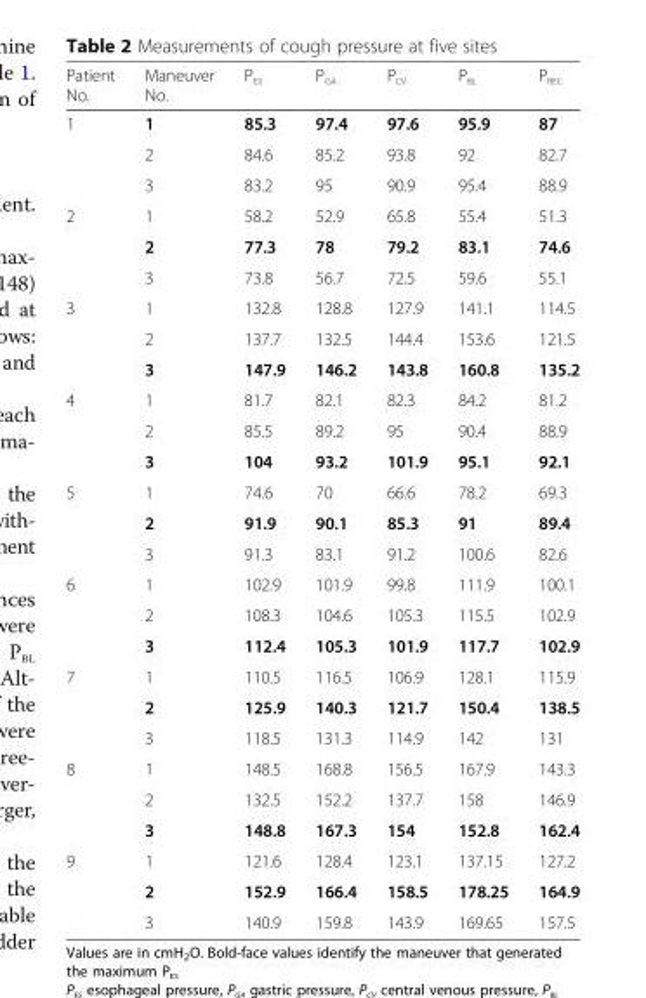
<table><thead><tr><td>Patient No.</td><td>Maneuver No.</td><td>P<sub>ES</sub></td><td>P<sub>GA</sub></td><td>P<sub>CV</sub></td><td>P<sub>BL</sub></td><td>P<sub>REC</sub></td></tr></thead><tbody><tr><td rowspan="3">1</td><td>1</td><td>85.3</td><td>97.4</td><td>97.6</td><td>95.9</td><td>87</td></tr><tr><td>2</td><td>84.6</td><td>85.2</td><td>93.8</td><td>92</td><td>82.7</td></tr><tr><td>3</td><td>83.2</td><td>95</td><td>90.9</td><td>95.4</td><td>88.9</td></tr><tr><td rowspan="3">2</td><td>1</td><td>58.2</td><td>52.9</td><td>65.8</td><td>55.4</td><td>51.3</td></tr><tr><td>2</td><td>77.3</td><td>78</td><td>79.2</td><td>83.1</td><td>74.6</td></tr><tr><td>3</td><td>73.8</td><td>56.7</td><td>72.5</td><td>59.6</td><td>55.1</td></tr><tr><td rowspan="3">3</td><td>1</td><td>132.8</td><td>128.8</td><td>127.9</td><td>141.1</td><td>114.5</td></tr><tr><td>2</td><td>137.7</td><td>132.5</td><td>144.4</td><td>153.6</td><td>121.5</td></tr><tr><td>3</td><td>147.9</td><td>146.2</td><td>143.8</td><td>160.8</td><td>135.2</td></tr><tr><td rowspan="3">4</td><td>1</td><td>81.7</td><td>82.1</td><td>82.3</td><td>84.2</td><td>81.2</td></tr><tr><td>2</td><td>85.5</td><td>89.2</td><td>95</td><td>90.4</td><td>88.9</td></tr><tr><td>3</td><td>104</td><td>93.2</td><td>101.9</td><td>95.1</td><td>92.1</td></tr><tr><td rowspan="3">5</td><td>1</td><td>74.6</td><td>70</td><td>66.6</td><td>78.2</td><td>69.3</td></tr><tr><td>2</td><td>91.9</td><td>90.1</td><td>85.3</td><td>91</td><td>89.4</td></tr><tr><td>3</td><td>91.3</td><td>83.1</td><td>91.2</td><td>100.6</td><td>82.6</td></tr><tr><td rowspan="3">6</td><td>1</td><td>102.9</td><td>101.9</td><td>99.8</td><td>111.9</td><td>100.1</td></tr><tr><td>2</td><td>108.3</td><td>104.6</td><td>105.3</td><td>115.5</td><td>102.9</td></tr><tr><td>3</td><td>112.4</td><td>105.3</td><td>101.9</td><td>117.7</td><td>102.9</td></tr><tr><td rowspan="3">7</td><td>1</td><td>110.5</td><td>116.5</td><td>106.9</td><td>128.1</td><td>115.9</td></tr><tr><td>2</td><td>125.9</td><td>140.3</td><td>121.7</td><td>150.4</td><td>138.5</td></tr><tr><td>3</td><td>118.5</td><td>131.3</td><td>114.9</td><td>142</td><td>131</td></tr><tr><td rowspan="3">8</td><td>1</td><td>148.5</td><td>168.8</td><td>156.5</td><td>167.9</td><td>143.3</td></tr><tr><td>2</td><td>132.5</td><td>152.2</td><td>137.7</td><td>158</td><td>146.9</td></tr><tr><td>3</td><td>148.8</td><td>167.3</td><td>154</td><td>152.8</td><td>162.4</td></tr><tr><td rowspan="3">9</td><td>1</td><td>121.6</td><td>128.4</td><td>123.1</td><td>137.15</td><td>127.2</td></tr><tr><td>2</td><td>152.9</td><td>166.4</td><td>158.5</td><td>178.25</td><td>164.9</td></tr><tr><td>3</td><td>140.9</td><td>159.8</td><td>143.9</td><td>169.65</td><td>157.5</td></tr></tbody></table>